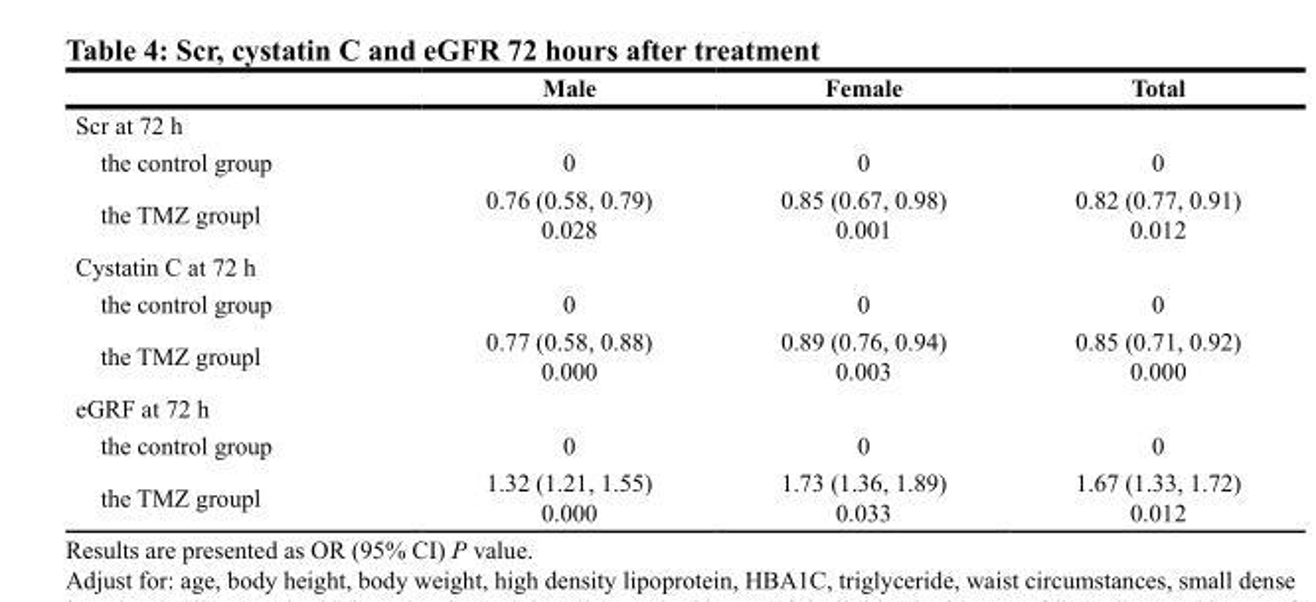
<table><thead><tr><td></td><td>Male</td><td>Female</td><td>Total</td></tr></thead><tbody><tr><td colspan="4">Scr at 72 h</td></tr><tr><td>the control group</td><td>0</td><td>0</td><td>0</td></tr><tr><td>the TMZ groupl</td><td>0.76 (0.58, 0.79) 0.028</td><td>0.85 (0.67, 0.98) 0.001</td><td>0.82 (0.77, 0.91) 0.012</td></tr><tr><td colspan="4">Cystatin C at 72 h</td></tr><tr><td>the control group</td><td>0</td><td>0</td><td>0</td></tr><tr><td>the TMZ groupl</td><td>0.77 (0.58, 0.88) 0.000</td><td>0.89 (0.76, 0.94) 0.003</td><td>0.85 (0.71, 0.92) 0.000</td></tr><tr><td colspan="4">eGRF at 72 h</td></tr><tr><td>the control group</td><td>0</td><td>0</td><td>0</td></tr><tr><td>the TMZ groupl</td><td>1.32 (1.21, 1.55) 0.000</td><td>1.73 (1.36, 1.89) 0.033</td><td>1.67 (1.33, 1.72) 0.012</td></tr></tbody></table>